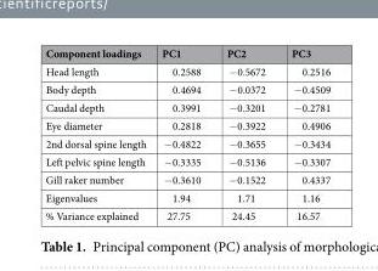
<table><thead><tr><td>Component loadings</td><td>PC1</td><td>PC2</td><td>PC3</td></tr></thead><tbody><tr><td>Head length</td><td>0.2588</td><td>−0.5672</td><td>0.2516</td></tr><tr><td>Body depth</td><td>0.4694</td><td>−0.0372</td><td>−0.4509</td></tr><tr><td>Caudal depth</td><td>0.3991</td><td>−0.3201</td><td>−0.2781</td></tr><tr><td>Eye diameter</td><td>0.2818</td><td>−0.3922</td><td>0.4906</td></tr><tr><td>2nd dorsal spine length</td><td>−0.4822</td><td>−0.3655</td><td>−0.3434</td></tr><tr><td>Left pelvic spine length</td><td>−0.3335</td><td>−0.5136</td><td>−0.3307</td></tr><tr><td>Gill raker number</td><td>−0.3610</td><td>−0.1522</td><td>0.4337</td></tr><tr><td>Eigenvalues</td><td>1.94</td><td>1.71</td><td>1.16</td></tr><tr><td>% Variance explained</td><td>27.75</td><td>24.45</td><td>16.57</td></tr></tbody></table>